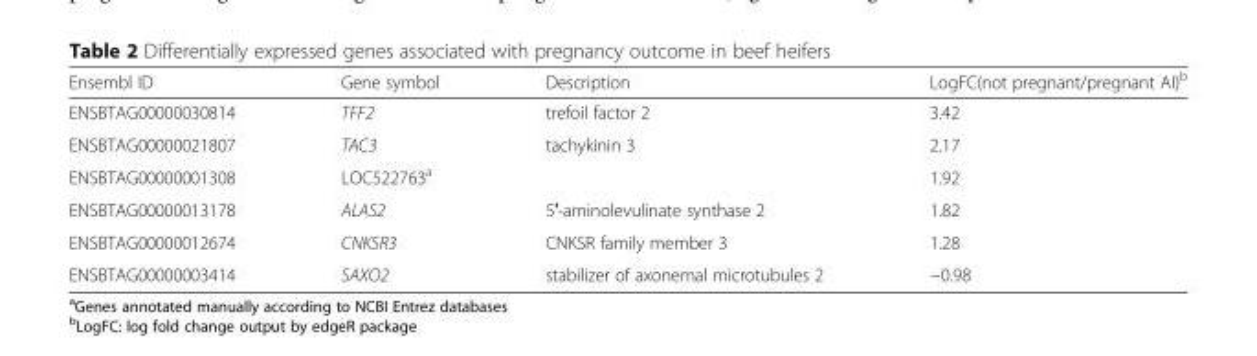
<table><thead><tr><td>Ensembl ID</td><td>Gene symbol</td><td>Description</td><td>LogFC(not pregnant/pregnant AI)<sup>b</sup></td></tr></thead><tbody><tr><td>ENSBTAG00000030814</td><td>TFF2</td><td>trefoil factor 2</td><td>3.42</td></tr><tr><td>ENSBTAG00000021807</td><td>TAC3</td><td>tachykinin 3</td><td>2.17</td></tr><tr><td>ENSBTAG00000001308</td><td colspan="2">LOC522763<sup>a</sup></td><td>1.92</td></tr><tr><td>ENSBTAG00000013178</td><td>ALAS2</td><td>5′-aminolevulinate synthase 2</td><td>1.82</td></tr><tr><td>ENSBTAG00000012674</td><td>CNKSR3</td><td>CNKSR family member 3</td><td>1.28</td></tr><tr><td>ENSBTAG00000003414</td><td>SAXO2</td><td>stabilizer of axonemal microtubules 2</td><td>−0.98</td></tr></tbody></table>